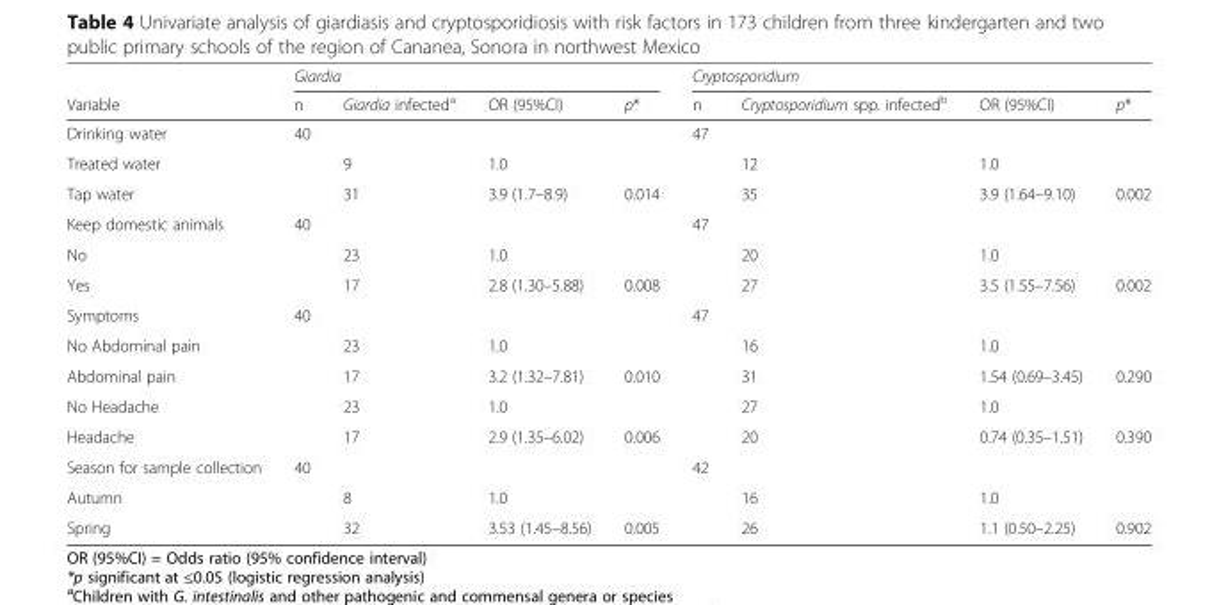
<table><thead><tr><td rowspan="2">Variable</td><td colspan="4">Giardia</td><td colspan="4">Cryptosporidium</td></tr><tr><td>n</td><td>Giardia infected<sup>a</sup></td><td>OR (95%CI)</td><td>p*</td><td>n</td><td>Cryptosporidium spp. infected<sup>b</sup></td><td>OR (95%CI)</td><td>p*</td></tr></thead><tbody><tr><td>Drinking water</td><td>40</td><td></td><td></td><td></td><td>47</td><td></td><td></td><td></td></tr><tr><td>Treated water</td><td></td><td>9</td><td>1.0</td><td></td><td></td><td>12</td><td>1.0</td><td></td></tr><tr><td>Tap water</td><td></td><td>31</td><td>3.9 (1.7–8.9)</td><td>0.014</td><td></td><td>35</td><td>3.9 (1.64–9.10)</td><td>0.002</td></tr><tr><td>Keep domestic animals</td><td>40</td><td></td><td></td><td></td><td>47</td><td></td><td></td><td></td></tr><tr><td>No</td><td></td><td>23</td><td>1.0</td><td></td><td></td><td>20</td><td>1.0</td><td></td></tr><tr><td>Yes</td><td></td><td>17</td><td>2.8 (1.30–5.88)</td><td>0.008</td><td></td><td>27</td><td>3.5 (1.55–7.56)</td><td>0.002</td></tr><tr><td>Symptoms</td><td>40</td><td></td><td></td><td></td><td>47</td><td></td><td></td><td></td></tr><tr><td>No Abdominal pain</td><td></td><td>23</td><td>1.0</td><td></td><td></td><td>16</td><td>1.0</td><td></td></tr><tr><td>Abdominal pain</td><td></td><td>17</td><td>3.2 (1.32–7.81)</td><td>0.010</td><td></td><td>31</td><td>1.54 (0.69–3.45)</td><td>0.290</td></tr><tr><td>No Headache</td><td></td><td>23</td><td>1.0</td><td></td><td></td><td>27</td><td>1.0</td><td></td></tr><tr><td>Headache</td><td></td><td>17</td><td>2.9 (1.35–6.02)</td><td>0.006</td><td></td><td>20</td><td>0.74 (0.35–1.51)</td><td>0.390</td></tr><tr><td>Season for sample collection</td><td>40</td><td></td><td></td><td></td><td>42</td><td></td><td></td><td></td></tr><tr><td>Autumn</td><td></td><td>8</td><td>1.0</td><td></td><td></td><td>16</td><td>1.0</td><td></td></tr><tr><td>Spring</td><td></td><td>32</td><td>3.53 (1.45–8.56)</td><td>0.005</td><td></td><td>26</td><td>1.1 (0.50–2.25)</td><td>0.902</td></tr></tbody></table>